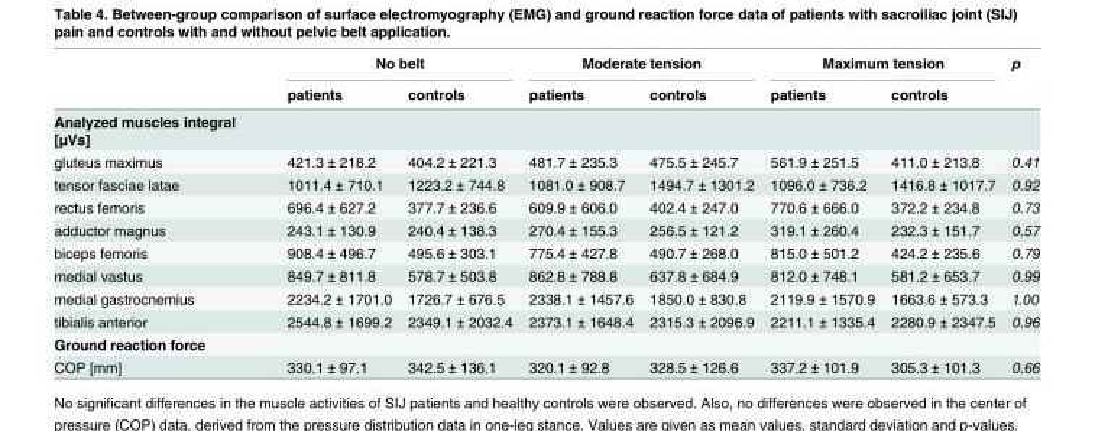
<table><thead><tr><td rowspan="2"></td><td colspan="2">No belt</td><td colspan="2">Moderate tension</td><td colspan="2">Maximum tension</td><td rowspan="2">p</td></tr><tr><td>patients</td><td>controls</td><td>patients</td><td>controls</td><td>patients</td><td>controls</td></tr></thead><tbody><tr><td colspan="8">Analyzed muscles integral [μVs]</td></tr><tr><td>gluteus maximus</td><td>421.3 ± 218.2</td><td>404.2 ± 221.3</td><td>481.7 ± 235.3</td><td>475.5 ± 245.7</td><td>561.9 ± 251.5</td><td>411.0 ± 213.8</td><td>0.41</td></tr><tr><td>tensor fasciae latae</td><td>1011.4 ± 710.1</td><td>1223.2 ± 744.8</td><td>1081.0 ± 908.7</td><td>1494.7 ± 1301.2</td><td>1096.0 ± 736.2</td><td>1416.8 ± 1017.7</td><td>0.92</td></tr><tr><td>rectus femoris</td><td>696.4 ± 627.2</td><td>377.7 ± 236.6</td><td>609.9 ± 606.0</td><td>402.4 ± 247.0</td><td>770.6 ± 666.0</td><td>372.2 ± 234.8</td><td>0.73</td></tr><tr><td>adductor magnus</td><td>243.1 ± 130.9</td><td>240.4 ± 138.3</td><td>270.4 ± 155.3</td><td>256.5 ± 121.2</td><td>319.1 ± 260.4</td><td>232.3 ± 151.7</td><td>0.57</td></tr><tr><td>biceps femoris</td><td>908.4 ± 496.7</td><td>495.6 ± 303.1</td><td>775.4 ± 427.8</td><td>490.7 ± 268.0</td><td>815.0 ± 501.2</td><td>424.2 ± 235.6</td><td>0.79</td></tr><tr><td>medial vastus</td><td>849.7 ± 811.8</td><td>578.7 ± 503.8</td><td>862.8 ± 788.8</td><td>637.8 ± 684.9</td><td>812.0 ± 748.1</td><td>581.2 ± 653.7</td><td>0.99</td></tr><tr><td>medial gastrocnemius</td><td>2234.2 ± 1701.0</td><td>1726.7 ± 676.5</td><td>2338.1 ± 1457.6</td><td>1850.0 ± 830.8</td><td>2119.9 ± 1570.9</td><td>1663.6 ± 573.3</td><td>1.00</td></tr><tr><td>tibialis anterior</td><td>2544.8 ± 1699.2</td><td>2349.1 ± 2032.4</td><td>2373.1 ± 1648.4</td><td>2315.3 ± 2096.9</td><td>2211.1 ± 1335.4</td><td>2280.9 ± 2347.5</td><td>0.96</td></tr><tr><td colspan="8">Ground reaction force</td></tr><tr><td>COP [mm]</td><td>330.1 ± 97.1</td><td>342.5 ± 136.1</td><td>320.1 ± 92.8</td><td>328.5 ± 126.6</td><td>337.2 ± 101.9</td><td>305.3 ± 101.3</td><td>0.66</td></tr></tbody></table>